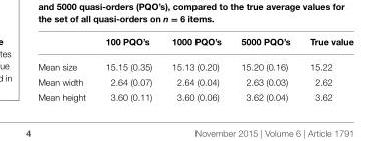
<table><thead><tr><td></td><td>100 PQO’s</td><td>1000 PQO’s</td><td>5000 PQO’s</td><td>True value</td></tr></thead><tbody><tr><td>Mean size</td><td>15.15 (0.35)</td><td>15.13 (0.20)</td><td>15.20 (0.16)</td><td>15.22</td></tr><tr><td>Mean width</td><td>2.64 (0.07)</td><td>2.64 (0.04)</td><td>2.63 (0.03)</td><td>2.62</td></tr><tr><td>Mean height</td><td>3.60 (0.11)</td><td>3.60 (0.06)</td><td>3.62 (0.04)</td><td>3.62</td></tr></tbody></table>